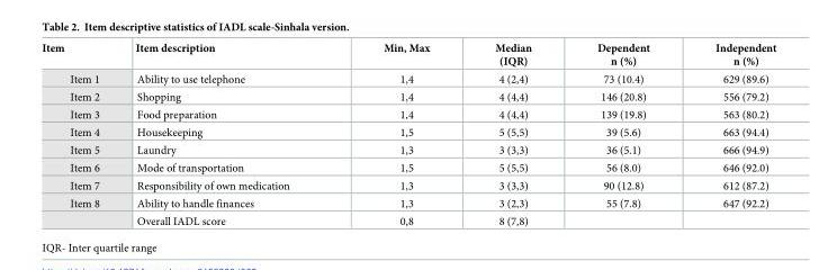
<table><thead><tr><td>Item</td><td>Item description</td><td>Min, Max</td><td>Median (IQR)</td><td>Dependent n (%)</td><td>Independent n (%)</td></tr></thead><tbody><tr><td>Item 1</td><td>Ability to use telephone</td><td>1,4</td><td>4 (2,4)</td><td>73 (10.4)</td><td>629 (89.6)</td></tr><tr><td>Item 2</td><td>Shopping</td><td>1,4</td><td>4 (4,4)</td><td>146 (20.8)</td><td>556 (79.2)</td></tr><tr><td>Item 3</td><td>Food preparation</td><td>1,4</td><td>4 (4,4)</td><td>139 (19.8)</td><td>563 (80.2)</td></tr><tr><td>Item 4</td><td>Housekeeping</td><td>1,5</td><td>5 (5,5)</td><td>39 (5.6)</td><td>663 (94.4)</td></tr><tr><td>Item 5</td><td>Laundry</td><td>1,3</td><td>3 (3,3)</td><td>36 (5.1)</td><td>666 (94.9)</td></tr><tr><td>Item 6</td><td>Mode of transportation</td><td>1,5</td><td>5 (5,5)</td><td>56 (8.0)</td><td>646 (92.0)</td></tr><tr><td>Item 7</td><td>Responsibility of own medication</td><td>1,3</td><td>3 (3,3)</td><td>90 (12.8)</td><td>612 (87.2)</td></tr><tr><td rowspan="2">Item 8</td><td>Ability to handle finances</td><td>1,3</td><td>3 (2,3)</td><td>55 (7.8)</td><td>647 (92.2)</td></tr><tr><td>Overall IADL score</td><td>0,8</td><td>8 (7,8)</td><td></td><td></td></tr></tbody></table>